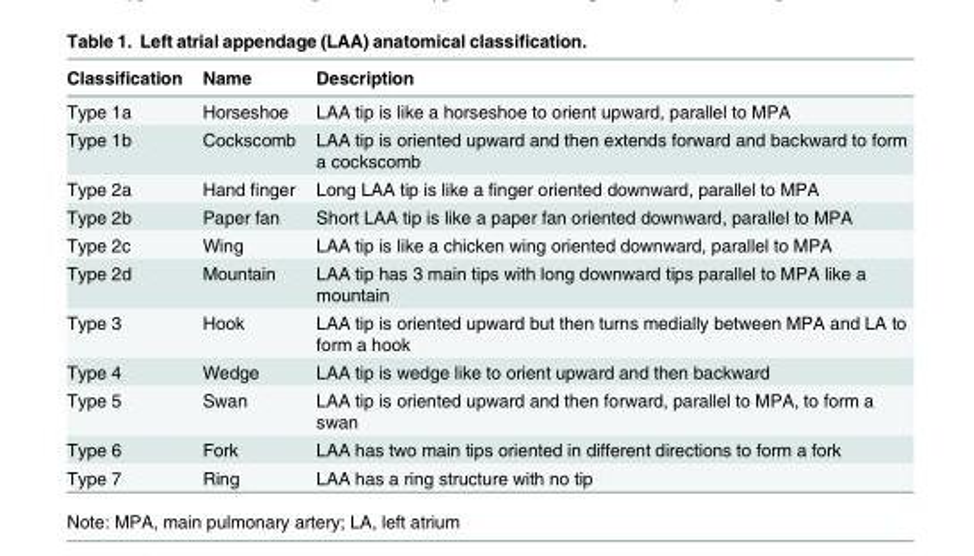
<table><thead><tr><td>Classification</td><td>Name</td><td>Description</td></tr></thead><tbody><tr><td>Type 1a</td><td>Horseshoe</td><td>LAA tip is like a horseshoe to orient upward, parallel to MPA</td></tr><tr><td>Type 1b</td><td>Cockscomb</td><td>LAA tip is oriented upward and then extends forward and backward to form a cockscomb</td></tr><tr><td>Type 2a</td><td>Hand finger</td><td>Long LAA tip is like a finger oriented downward, parallel to MPA</td></tr><tr><td>Type 2b</td><td>Paper fan</td><td>Short LAA tip is like a paper fan oriented downward, parallel to MPA</td></tr><tr><td>Type 2c</td><td>Wing</td><td>LAA tip is like a chicken wing oriented downward, parallel to MPA</td></tr><tr><td>Type 2d</td><td>Mountain</td><td>LAA tip has 3 main tips with long downward tips parallel to MPA like a mountain</td></tr><tr><td>Type 3</td><td>Hook</td><td>LAA tip is oriented upward but then turns medially between MPA and LA to form a hook</td></tr><tr><td>Type 4</td><td>Wedge</td><td>LAA tip is wedge like to orient upward and then backward</td></tr><tr><td>Type 5</td><td>Swan</td><td>LAA tip is oriented upward and then forward, parallel to MPA, to form a swan</td></tr><tr><td>Type 6</td><td>Fork</td><td>LAA has two main tips oriented in different directions to form a fork</td></tr><tr><td>Type 7</td><td>Ring</td><td>LAA has a ring structure with no tip</td></tr></tbody></table>